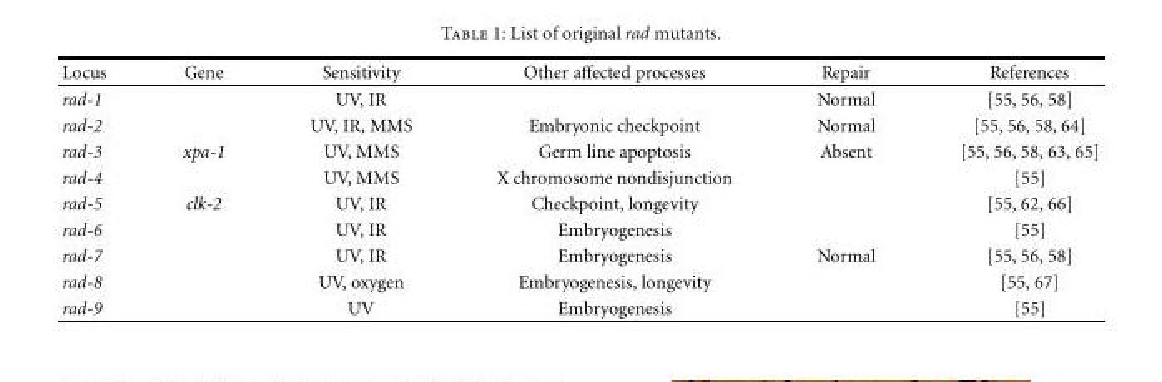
<table><thead><tr><td>Locus</td><td>Gene</td><td>Sensitivity</td><td>Other affected processes</td><td>Repair</td><td>References</td></tr></thead><tbody><tr><td>rad-1</td><td></td><td>UV, IR</td><td></td><td>Normal</td><td>[55, 56, 58]</td></tr><tr><td>rad-2</td><td></td><td>UV, IR, MMS</td><td>Embryonic checkpoint</td><td>Normal</td><td>[55, 56, 58, 64]</td></tr><tr><td>rad-3</td><td>xpa-1</td><td>UV, MMS</td><td>Germ line apoptosis</td><td>Absent</td><td>[55, 56, 58, 63, 65]</td></tr><tr><td>rad-4</td><td></td><td>UV, MMS</td><td>X chromosome nondisjunction</td><td></td><td>[55]</td></tr><tr><td>rad-5</td><td>clk-2</td><td>UV, IR</td><td>Checkpoint, longevity</td><td></td><td>[55, 62, 66]</td></tr><tr><td>rad-6</td><td></td><td>UV, IR</td><td>Embryogenesis</td><td></td><td>[55]</td></tr><tr><td>rad-7</td><td></td><td>UV, IR</td><td>Embryogenesis</td><td>Normal</td><td>[55, 56, 58]</td></tr><tr><td>rad-8</td><td></td><td>UV, oxygen</td><td>Embryogenesis, longevity</td><td></td><td>[55, 67]</td></tr><tr><td>rad-9</td><td></td><td>UV</td><td>Embryogenesis</td><td></td><td>[55]</td></tr></tbody></table>